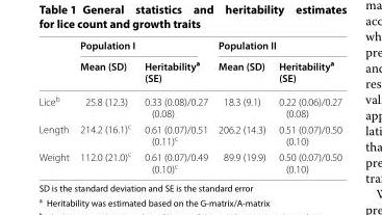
<table><thead><tr><td rowspan="2"></td><td colspan="2">Population I</td><td colspan="2">Population II</td></tr><tr><td>Mean (SD)</td><td>Heritability<sup>a</sup> (SE)</td><td>Mean (SD)</td><td>Heritability<sup>a</sup> (SE)</td></tr></thead><tbody><tr><td>Lice<sup>b</sup></td><td>25.8 (12.3)</td><td>0. 33 (0.08)/0.27 (0.08)</td><td>18.3 (9.1)</td><td>0. 22 (0.06)/0.27 (0.08)</td></tr><tr><td>Length</td><td>214.2 (16.1)<sup>c</sup></td><td>0. 61 (0.07)/0.51 (0.11)<sup>c</sup></td><td>206.2 (14.3)</td><td>0. 51 (0.07)/0.50 (0.10)</td></tr><tr><td>Weight</td><td>112.0 (21.0)<sup>c</sup></td><td>0. 61 (0.07)/0.49 (0.10)<sup>c</sup></td><td>89.9 (19.9)</td><td>0. 50 (0.07)/0.50 (0.10)</td></tr></tbody></table>